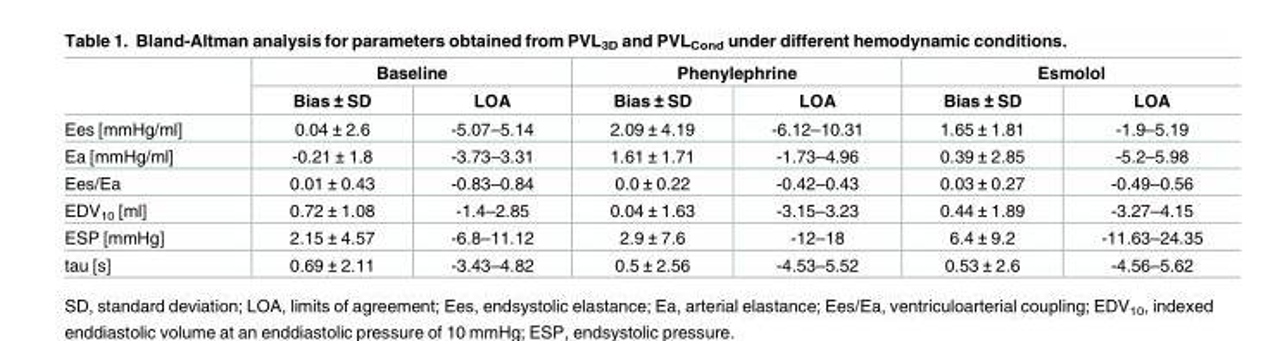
<table><thead><tr><td rowspan="2"></td><td colspan="2">Baseline</td><td colspan="2">Phenylephrine</td><td colspan="2">Esmolol</td></tr><tr><td>Bias ± SD</td><td>LOA</td><td>Bias ± SD</td><td>LOA</td><td>Bias ± SD</td><td>LOA</td></tr></thead><tbody><tr><td>Ees [mmHg/ml]</td><td>0.04 ± 2.6</td><td>-5.07–5.14</td><td>2.09 ± 4.19</td><td>-6.12–10.31</td><td>1.65 ± 1.81</td><td>-1.9–5.19</td></tr><tr><td>Ea [mmHg/ml]</td><td>-0.21 ± 1.8</td><td>-3.73–3.31</td><td>1.61 ± 1.71</td><td>-1.73–4.96</td><td>0.39 ± 2.85</td><td>-5.2–5.98</td></tr><tr><td>Ees/Ea</td><td>0.01 ± 0.43</td><td>-0.83–0.84</td><td>0.0 ± 0.22</td><td>-0.42–0.43</td><td>0.03 ± 0.27</td><td>-0.49–0.56</td></tr><tr><td>EDV<sub>10</sub> [ml]</td><td>0.72 ± 1.08</td><td>-1.4–2.85</td><td>0.04 ± 1.63</td><td>-3.15–3.23</td><td>0.44 ± 1.89</td><td>-3.27–4.15</td></tr><tr><td>ESP [mmHg]</td><td>2.15 ± 4.57</td><td>-6.8–11.12</td><td>2.9 ± 7.6</td><td>-12–18</td><td>6.4 ± 9.2</td><td>-11.63–24.35</td></tr><tr><td>tau [s]</td><td>0.69 ± 2.11</td><td>-3.43–4.82</td><td>0.5 ± 2.56</td><td>-4.53–5.52</td><td>0.53 ± 2.6</td><td>-4.56–5.62</td></tr></tbody></table>